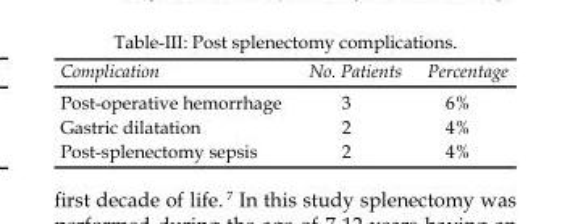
<table><thead><tr><td>Complication</td><td>No. Patients</td><td>Percentage</td></tr></thead><tbody><tr><td>Post-operative hemorrhage</td><td>3</td><td>6%</td></tr><tr><td>Gastric dilatation</td><td>2</td><td>4%</td></tr><tr><td>Post-splenectomy sepsis</td><td>2</td><td>4%</td></tr></tbody></table>